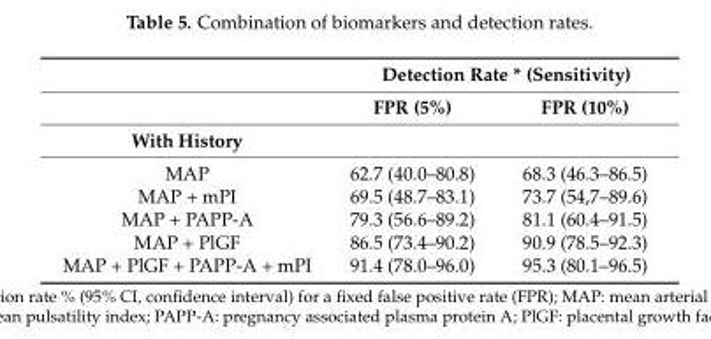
<table><thead><tr><td rowspan="3">With History</td><td colspan="2">Detection Rate * (Sensitivity)</td></tr><tr><td rowspan="2">FPR (5%)</td><td rowspan="2">FPR (10%)</td></tr><tr></tr></thead><tbody><tr><td>MAP</td><td>62.7 (40.0–80.8)</td><td>68.3 (46.3–86.5)</td></tr><tr><td>MAP + mPI</td><td>69.5 (48.7–83.1)</td><td>73.7 (54,7–89.6)</td></tr><tr><td>MAP + PAPP-A</td><td>79.3 (56.6–89.2)</td><td>81.1 (60.4–91.5)</td></tr><tr><td>MAP + PlGF</td><td>86.5 (73.4–90.2)</td><td>90.9 (78.5–92.3)</td></tr><tr><td>MAP + PlGF + PAPP-A + mPI</td><td>91.4 (78.0–96.0)</td><td>95.3 (80.1–96.5)</td></tr></tbody></table>